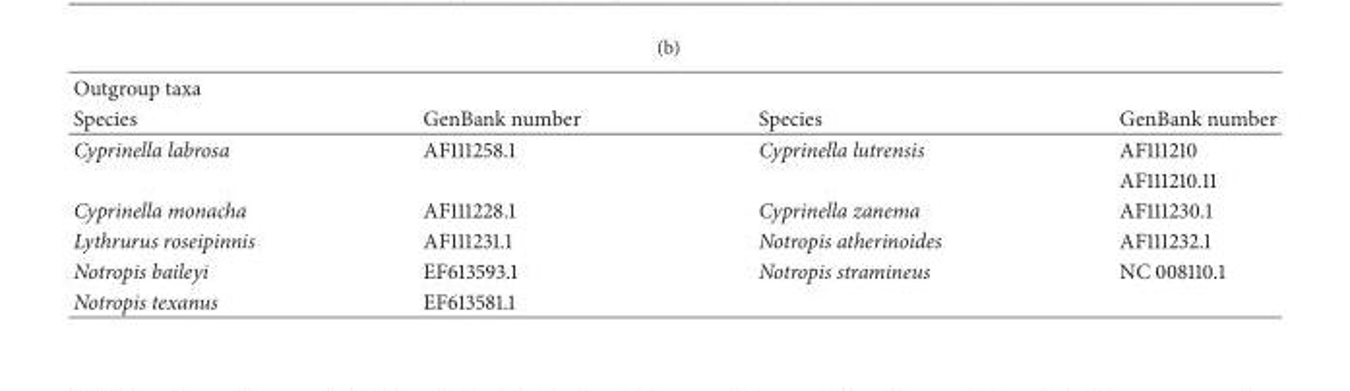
<table><thead><tr><td rowspan="2">Outgroup taxa Species</td><td rowspan="2">GenBank number</td><td rowspan="2">Species</td><td rowspan="2">GenBank number</td></tr><tr></tr></thead><tbody><tr><td rowspan="2">Cyprinella labrosa</td><td>AF111258.1</td><td>Cyprinella lutrensis</td><td>AF111210</td></tr><tr><td></td><td></td><td>AF111210.11</td></tr><tr><td>Cyprinella monacha</td><td>AF111228.1</td><td>Cyprinella zanema</td><td>AF111230.1</td></tr><tr><td>Lythrurus roseipinnis</td><td>AF111231.1</td><td>Notropis atherinoides</td><td>AF111232.1</td></tr><tr><td>Notropis baileyi</td><td>EF613593.1</td><td>Notropis stramineus</td><td>NC 008110.1</td></tr><tr><td>Notropis texanus</td><td>EF613581.1</td><td></td><td></td></tr></tbody></table>